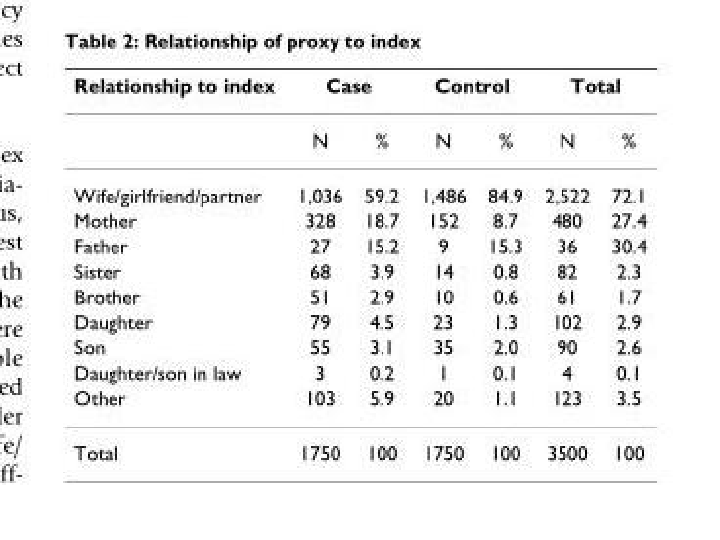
<table><thead><tr><td rowspan="2">Relationship to index</td><td colspan="2">Case</td><td colspan="2">Control</td><td colspan="2">Total</td></tr><tr><td>N</td><td>%</td><td>N</td><td>%</td><td>N</td><td>%</td></tr></thead><tbody><tr><td>Wife/girlfriend/partner</td><td>1,036</td><td>59.2</td><td>1,486</td><td>84.9</td><td>2,522</td><td>72.1</td></tr><tr><td>Mother</td><td>328</td><td>18.7</td><td>152</td><td>8.7</td><td>480</td><td>27.4</td></tr><tr><td>Father</td><td>27</td><td>15.2</td><td>9</td><td>15.3</td><td>36</td><td>30.4</td></tr><tr><td>Sister</td><td>68</td><td>3.9</td><td>14</td><td>0.8</td><td>82</td><td>2.3</td></tr><tr><td>Brother</td><td>51</td><td>2.9</td><td>10</td><td>0.6</td><td>61</td><td>1.7</td></tr><tr><td>Daughter</td><td>79</td><td>4.5</td><td>23</td><td>1.3</td><td>102</td><td>2.9</td></tr><tr><td>Son</td><td>55</td><td>3.1</td><td>35</td><td>2.0</td><td>90</td><td>2.6</td></tr><tr><td>Daughter/son in law</td><td>3</td><td>0.2</td><td>1</td><td>0.1</td><td>4</td><td>0.1</td></tr><tr><td>Other</td><td>103</td><td>5.9</td><td>20</td><td>1.1</td><td>123</td><td>3.5</td></tr><tr><td>Total</td><td>1750</td><td>100</td><td>1750</td><td>100</td><td>3500</td><td>100</td></tr></tbody></table>